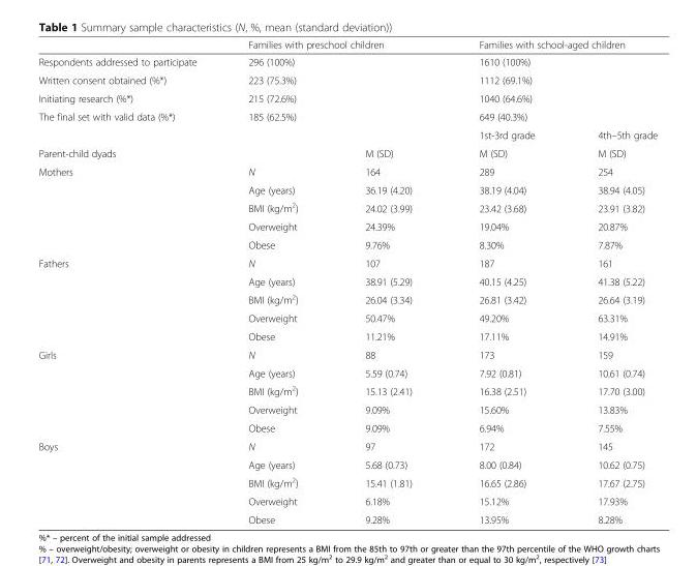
<table><thead><tr><td></td><td colspan="2">Families with preschool children</td><td colspan="2">Families with school-aged children</td></tr></thead><tbody><tr><td>Respondents addressed to participate</td><td colspan="2">296 (100%)</td><td colspan="2">1610 (100%)</td></tr><tr><td>Written consent obtained (%*)</td><td colspan="2">223 (75.3%)</td><td colspan="2">1112 (69.1%)</td></tr><tr><td>Initiating research (%*)</td><td colspan="2">215 (72.6%)</td><td colspan="2">1040 (64.6%)</td></tr><tr><td rowspan="2">The final set with valid data (%*)</td><td colspan="2">185 (62.5%)</td><td colspan="2">649 (40.3%)</td></tr><tr><td></td><td></td><td>1st-3rd grade</td><td>4th–5th grade</td></tr><tr><td>Parent-child dyads</td><td></td><td>M (SD)</td><td>M (SD)</td><td>M (SD)</td></tr><tr><td rowspan="5">Mothers</td><td>N</td><td>164</td><td>289</td><td>254</td></tr><tr><td>Age (years)</td><td>36.19 (4.20)</td><td>38.19 (4.04)</td><td>38.94 (4.05)</td></tr><tr><td>BMI (kg/m<sup>2</sup>)</td><td>24.02 (3.99)</td><td>23.42 (3.68)</td><td>23.91 (3.82)</td></tr><tr><td>Overweight</td><td>24.39%</td><td>19.04%</td><td>20.87%</td></tr><tr><td>Obese</td><td>9.76%</td><td>8.30%</td><td>7.87%</td></tr><tr><td rowspan="5">Fathers</td><td>N</td><td>107</td><td>187</td><td>161</td></tr><tr><td>Age (years)</td><td>38.91 (5.29)</td><td>40.15 (4.25)</td><td>41.38 (5.22)</td></tr><tr><td>BMI (kg/m<sup>2</sup>)</td><td>26.04 (3.34)</td><td>26.81 (3.42)</td><td>26.64 (3.19)</td></tr><tr><td>Overweight</td><td>50.47%</td><td>49.20%</td><td>63.31%</td></tr><tr><td>Obese</td><td>11.21%</td><td>17.11%</td><td>14.91%</td></tr><tr><td rowspan="5">Girls</td><td>N</td><td>88</td><td>173</td><td>159</td></tr><tr><td>Age (years)</td><td>5.59 (0.74)</td><td>7.92 (0.81)</td><td>10.61 (0.74)</td></tr><tr><td>BMI (kg/m<sup>2</sup>)</td><td>15.13 (2.41)</td><td>16.38 (2.51)</td><td>17.70 (3.00)</td></tr><tr><td>Overweight</td><td>9.09%</td><td>15.60%</td><td>13.83%</td></tr><tr><td>Obese</td><td>9.09%</td><td>6.94%</td><td>7.55%</td></tr><tr><td rowspan="5">Boys</td><td>N</td><td>97</td><td>172</td><td>145</td></tr><tr><td>Age (years)</td><td>5.68 (0.73)</td><td>8.00 (0.84)</td><td>10.62 (0.75)</td></tr><tr><td>BMI (kg/m<sup>2</sup>)</td><td>15.41 (1.81)</td><td>16.65 (2.86)</td><td>17.67 (2.75)</td></tr><tr><td>Overweight</td><td>6.18%</td><td>15.12%</td><td>17.93%</td></tr><tr><td>Obese</td><td>9.28%</td><td>13.95%</td><td>8.28%</td></tr></tbody></table>